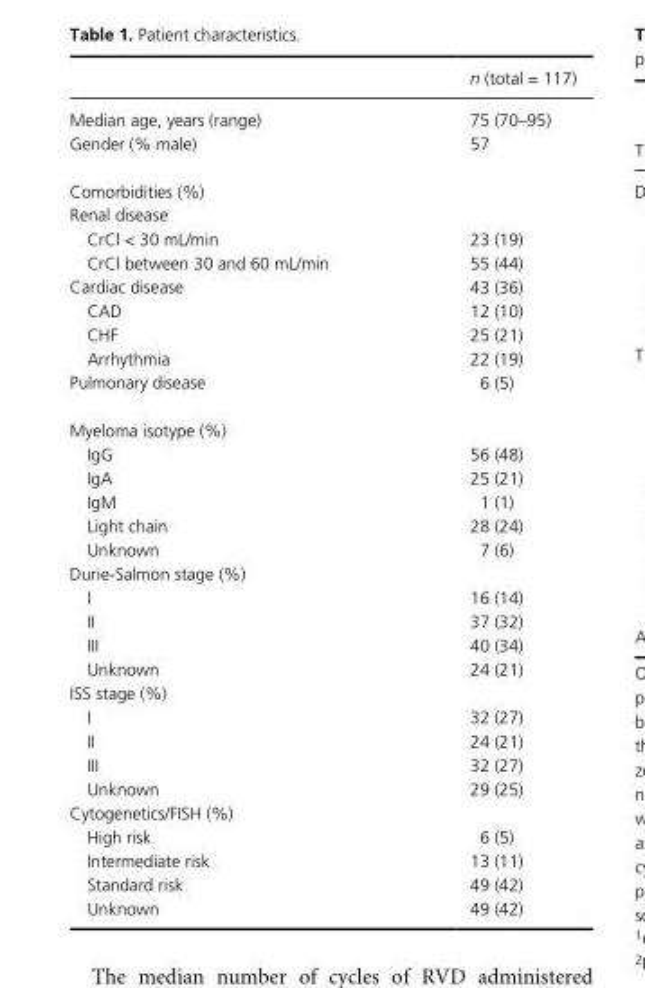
<table><thead><tr><td></td><td>n (total = 117)</td></tr></thead><tbody><tr><td>Median age, years (range)</td><td>75 (70–95)</td></tr><tr><td>Gender (% male)</td><td>57</td></tr><tr><td colspan="2">Comorbidities (%)</td></tr><tr><td colspan="2">Renal disease</td></tr><tr><td>CrCl &lt; 30 mL/min</td><td>23 (19)</td></tr><tr><td>CrCl between 30 and 60 mL/min</td><td>55 (44)</td></tr><tr><td>Cardiac disease</td><td>43 (36)</td></tr><tr><td>CAD</td><td>12 (10)</td></tr><tr><td>CHF</td><td>25 (21)</td></tr><tr><td>Arrhythmia</td><td>22 (19)</td></tr><tr><td>Pulmonary disease</td><td>6 (5)</td></tr><tr><td colspan="2">Myeloma isotype (%)</td></tr><tr><td>IgG</td><td>56 (48)</td></tr><tr><td>IgA</td><td>25 (21)</td></tr><tr><td>IgM</td><td>1 (1)</td></tr><tr><td>Light chain</td><td>28 (24)</td></tr><tr><td>Unknown</td><td>7 (6)</td></tr><tr><td colspan="2">Durie- Salmon stage (%)</td></tr><tr><td>I</td><td>16 (14)</td></tr><tr><td>II</td><td>37 (32)</td></tr><tr><td>III</td><td>40 (34)</td></tr><tr><td>Unknown</td><td>24 (21)</td></tr><tr><td colspan="2">ISS stage (%)</td></tr><tr><td>I</td><td>32 (27)</td></tr><tr><td>II</td><td>24 (21)</td></tr><tr><td>III</td><td>32 (27)</td></tr><tr><td>Unknown</td><td>29 (25)</td></tr><tr><td colspan="2">Cytogenetics/FISH (%)</td></tr><tr><td>High risk</td><td>6 (5)</td></tr><tr><td>Intermediate risk</td><td>13 (11)</td></tr><tr><td>Standard risk</td><td>49 (42)</td></tr><tr><td>Unknown</td><td>49 (42)</td></tr></tbody></table>